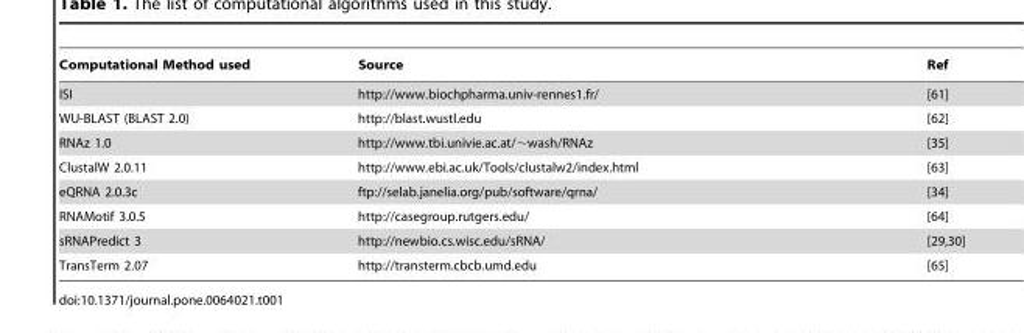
<table><thead><tr><td>Computational Method used</td><td>Source</td><td>Ref</td></tr></thead><tbody><tr><td>ISI</td><td>http://www.biochpharma.univ-rennes1.fr/</td><td>[61]</td></tr><tr><td>WU-BLAST (BLAST 2.0)</td><td>http://blast.wustl.edu</td><td>[62]</td></tr><tr><td>RNAz 1.0</td><td>http://www.tbi.univie.ac.at/,wash/RNAz</td><td>[35]</td></tr><tr><td>ClustalW 2.0.11</td><td>http://www.ebi.ac.uk/Tools/clustalw2/index.html</td><td>[63]</td></tr><tr><td>eQRNA 2.0.3c</td><td>ftp://selab.janelia.org/pub/software/qrna/</td><td>[34]</td></tr><tr><td>RNAMotif 3.0.5</td><td>http://casegroup.rutgers.edu/</td><td>[64]</td></tr><tr><td>sRNAPredict 3</td><td>http://newbio.cs.wisc.edu/sRNA/</td><td>[29,30]</td></tr><tr><td>TransTerm 2.07</td><td>http://transterm.cbcb.umd.edu</td><td>[65]</td></tr></tbody></table>